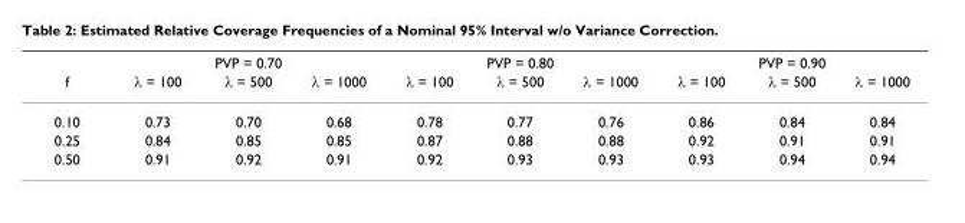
<table><thead><tr><td rowspan="2">f</td><td colspan="3">PVP = 0.70</td><td colspan="3">PVP = 0.80</td><td colspan="3">PVP = 0.90</td></tr><tr><td>λ = 100</td><td>λ = 500</td><td>λ = 1000</td><td>λ = 100</td><td>λ = 500</td><td>λ = 1000</td><td>λ = 100</td><td>λ = 500</td><td>λ = 1000</td></tr></thead><tbody><tr><td>0.10</td><td>0.73</td><td>0.70</td><td>0.68</td><td>0.78</td><td>0.77</td><td>0.76</td><td>0.86</td><td>0.84</td><td>0.84</td></tr><tr><td>0.25</td><td>0.84</td><td>0.85</td><td>0.85</td><td>0.87</td><td>0.88</td><td>0.88</td><td>0.92</td><td>0.91</td><td>0.91</td></tr><tr><td>0.50</td><td>0.91</td><td>0.92</td><td>0.91</td><td>0.92</td><td>0.93</td><td>0.93</td><td>0.93</td><td>0.94</td><td>0.94</td></tr></tbody></table>